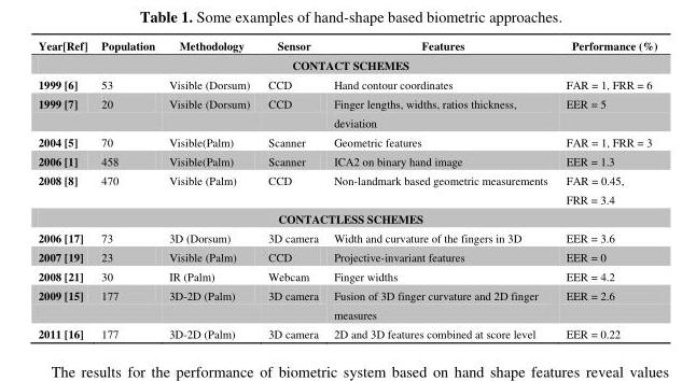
<table><thead><tr><td>Year[Ref]</td><td>Population</td><td>Methodology</td><td>Sensor</td><td>Features</td><td>Performance (%)</td></tr></thead><tbody><tr><td colspan="6">CONTACT SCHEMES</td></tr><tr><td>1999 [6]</td><td>53</td><td>Visible (Dorsum)</td><td>CCD</td><td>Hand contour coordinates</td><td>FAR = 1, FRR = 6</td></tr><tr><td>1999 [7]</td><td>20</td><td>Visible (Dorsum)</td><td>CCD</td><td>Finger lengths, widths, ratios thickness, deviation</td><td>EER = 5</td></tr><tr><td>2004 [5]</td><td>70</td><td>Visible(Palm)</td><td>Scanner</td><td>Geometric features</td><td>FAR = 1, FRR = 3</td></tr><tr><td>2006 [1]</td><td>458</td><td>Visible(Palm)</td><td>Scanner</td><td>ICA2 on binary hand image</td><td>EER = 1.3</td></tr><tr><td>2008 [8]</td><td>470</td><td>Visible (Palm)</td><td>CCD</td><td>Non-landmark based geometric measurements</td><td>FAR = 0.45, FRR = 3.4</td></tr><tr><td colspan="6">CONTACTLESS SCHEMES</td></tr><tr><td>2006 [17]</td><td>73</td><td>3D (Dorsum)</td><td>3D camera</td><td>Width and curvature of the fingers in 3D</td><td>EER = 3.6</td></tr><tr><td>2007 [19]</td><td>23</td><td>Visible (Palm)</td><td>CCD</td><td>Projective-invariant features</td><td>EER = 0</td></tr><tr><td>2008 [21]</td><td>30</td><td>IR (Palm)</td><td>Webcam</td><td>Finger widths</td><td>EER = 4.2</td></tr><tr><td>2009 [15]</td><td>177</td><td>3D-2D (Palm)</td><td>3D camera</td><td>Fusion of 3D finger curvature and 2D finger measures</td><td>EER = 2.6</td></tr><tr><td>2011 [16]</td><td>177</td><td>3D-2D (Palm)</td><td>3D camera</td><td>2D and 3D features combined at score level</td><td>EER = 0.22</td></tr></tbody></table>